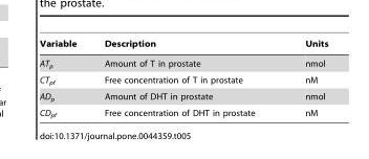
<table><thead><tr><td>Variable</td><td>Description</td><td>Units</td></tr></thead><tbody><tr><td>AT<sub>p</sub></td><td>Amount of T in prostate</td><td>nmol</td></tr><tr><td>CT<sub>pf</sub></td><td>Free concentration of T in prostate</td><td>nM</td></tr><tr><td>AD<sub>p</sub></td><td>Amount of DHT in prostate</td><td>nmol</td></tr><tr><td>CD<sub>pf</sub></td><td>Free concentration of DHT in prostate</td><td>nM</td></tr></tbody></table>